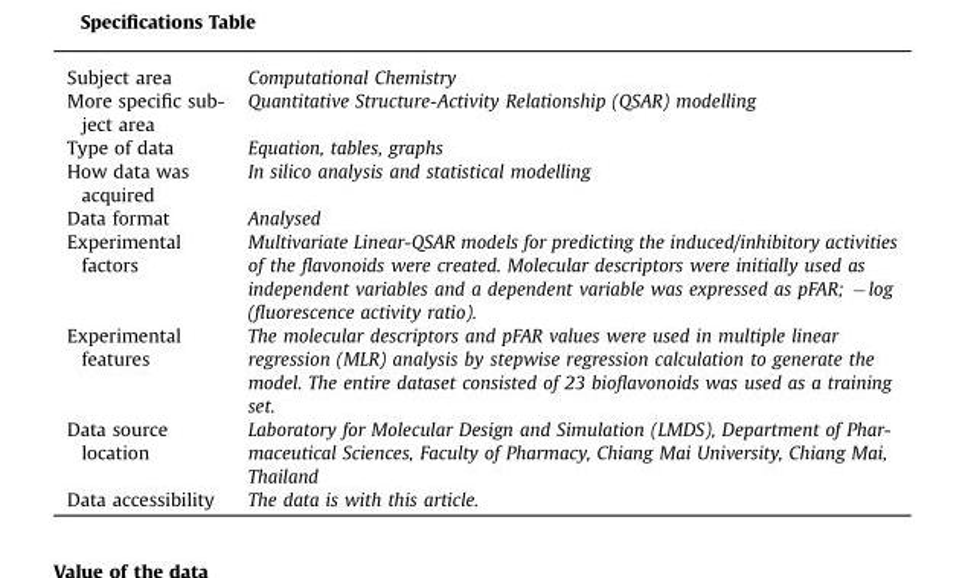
<table><tbody><tr><td>Subject area</td><td>Computational Chemistry</td></tr><tr><td>More specific sub- ject area</td><td>Quantitative Structure-Activity Relationship (QSAR) modelling</td></tr><tr><td>Type of data</td><td>Equation, tables, graphs</td></tr><tr><td>How data was acquired</td><td>In silico analysis and statistical modelling</td></tr><tr><td>Data format</td><td>Analysed</td></tr><tr><td>Experimental factors</td><td>Multivariate Linear-QSAR models for predicting the induced/inhibitory activities of the flavonoids were created. Molecular descriptors were initially used as independent variables and a dependent variable was expressed as pFAR; −log (fluorescence activity ratio).</td></tr><tr><td>Experimental features</td><td>The molecular descriptors and pFAR values were used in multiple linear regression (MLR) analysis by stepwise regression calculation to generate the model. The entire dataset consisted of 23 bioflavonoids was used as a training set.</td></tr><tr><td>Data source location</td><td>Laboratory for Molecular Design and Simulation (LMDS), Department of Phar- maceutical Sciences, Faculty of Pharmacy, Chiang Mai University, Chiang Mai, Thailand</td></tr><tr><td>Data accessibility</td><td>The data is with this article.</td></tr></tbody></table>